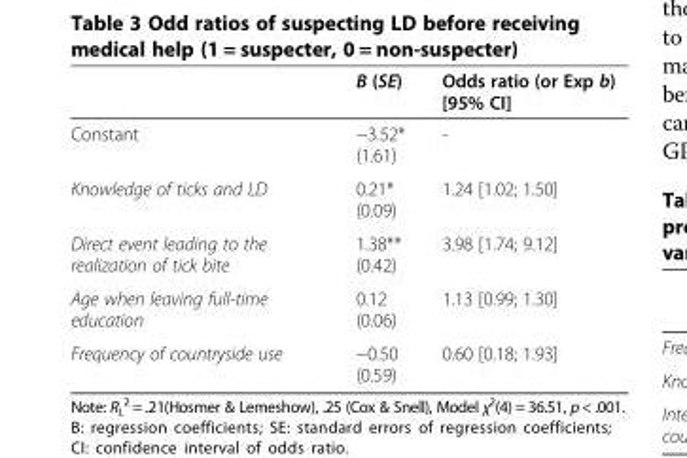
<table><thead><tr><td></td><td>B (SE)</td><td>Odds ratio (or Exp b) [95% CI]</td></tr></thead><tbody><tr><td>Constant</td><td>−3.52* (1.61)</td><td>-</td></tr><tr><td>Knowledge of ticks and LD</td><td>0.21* (0.09)</td><td>1.24 [1.02; 1.50]</td></tr><tr><td>Direct event leading to the realization of tick bite</td><td>1.38** (0.42)</td><td>3.98 [1.74; 9.12]</td></tr><tr><td>Age when leaving full-time education</td><td>0.12 (0.06)</td><td>1.13 [0.99; 1.30]</td></tr><tr><td>Frequency of countryside use</td><td>−0.50 (0.59)</td><td>0.60 [0.18; 1.93]</td></tr></tbody></table>